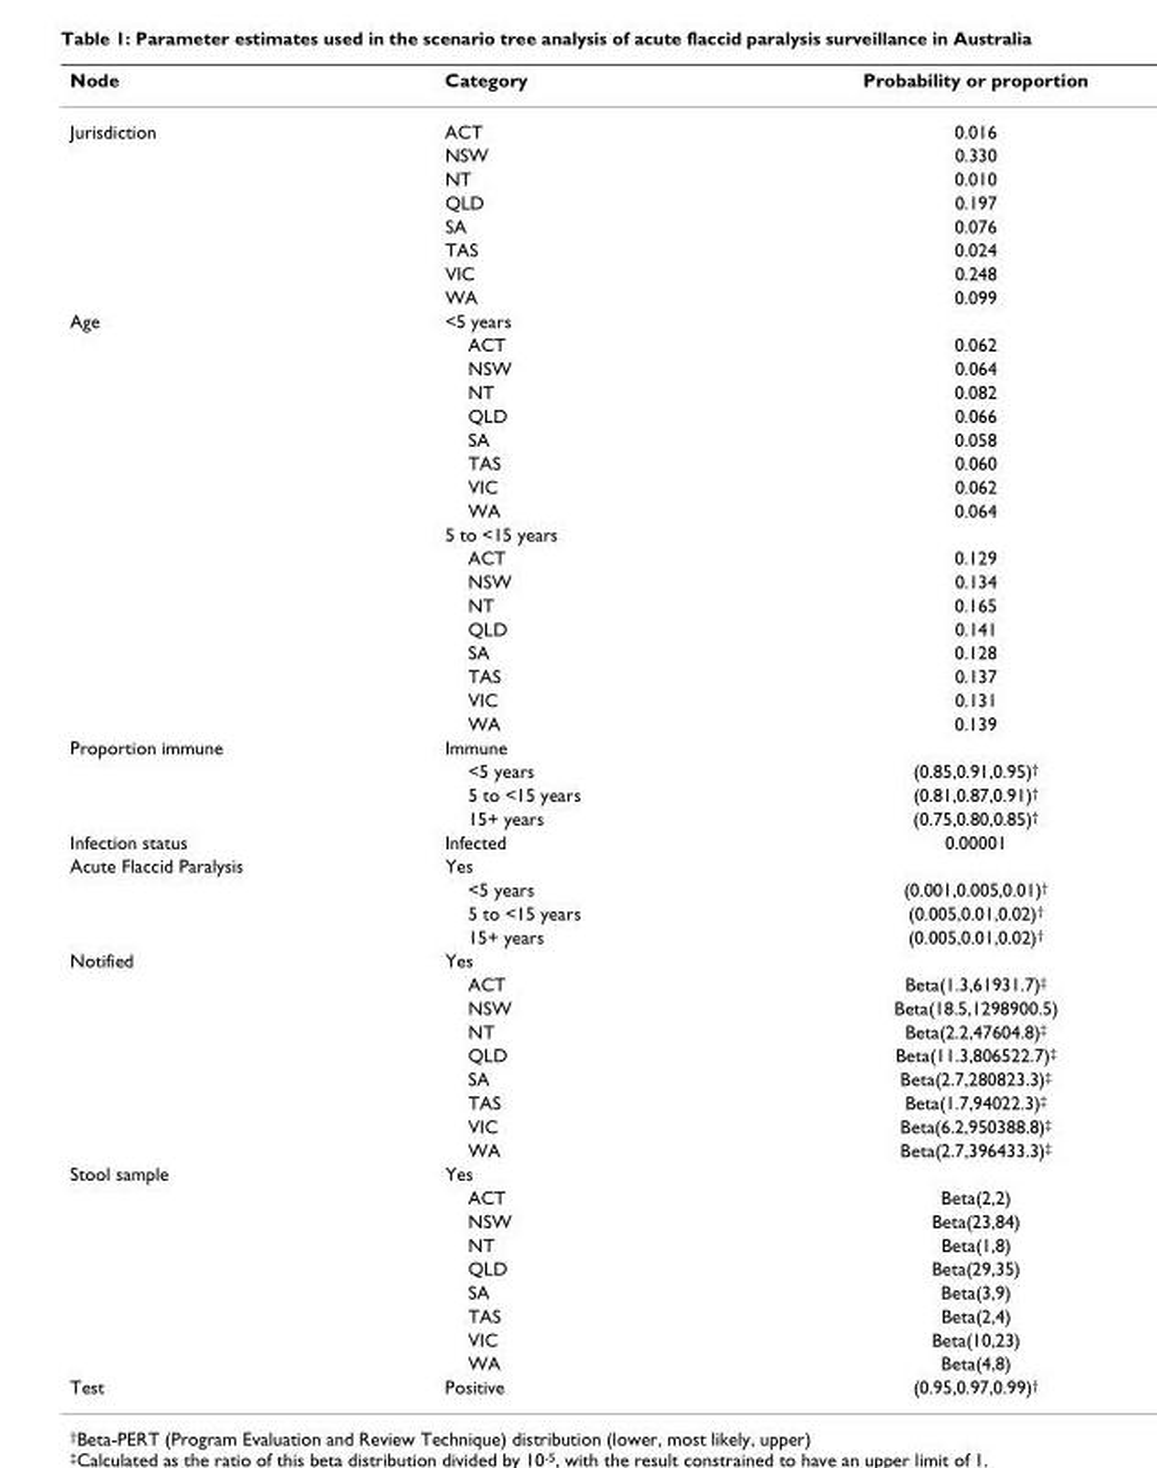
<table><thead><tr><td>Node</td><td>Category</td><td>Probability or proportion</td></tr></thead><tbody><tr><td rowspan="8">Jurisdiction</td><td>ACT</td><td>0.016</td></tr><tr><td>NSW</td><td>0.330</td></tr><tr><td>NT</td><td>0.010</td></tr><tr><td>QLD</td><td>0.197</td></tr><tr><td>SA</td><td>0.076</td></tr><tr><td>TAS</td><td>0.024</td></tr><tr><td>VIC</td><td>0.248</td></tr><tr><td>WA</td><td>0.099</td></tr><tr><td rowspan="18">Age</td><td>&lt;5 years</td><td></td></tr><tr><td>ACT</td><td>0.062</td></tr><tr><td>NSW</td><td>0.064</td></tr><tr><td>NT</td><td>0.082</td></tr><tr><td>QLD</td><td>0.066</td></tr><tr><td>SA</td><td>0.058</td></tr><tr><td>TAS</td><td>0.060</td></tr><tr><td>VIC</td><td>0.062</td></tr><tr><td>WA</td><td>0.064</td></tr><tr><td>5 to &lt;15 years</td><td></td></tr><tr><td>ACT</td><td>0.129</td></tr><tr><td>NSW</td><td>0.134</td></tr><tr><td>NT</td><td>0.165</td></tr><tr><td>QLD</td><td>0.141</td></tr><tr><td>SA</td><td>0.128</td></tr><tr><td>TAS</td><td>0.137</td></tr><tr><td>VIC</td><td>0.131</td></tr><tr><td>WA</td><td>0.139</td></tr><tr><td rowspan="4">Proportion immune</td><td>Immune</td><td></td></tr><tr><td>&lt;5 years</td><td>(0.85,0.91,0.95)<sup>†</sup></td></tr><tr><td>5 to &lt;15 years</td><td>(0.81,0.87,0.91)<sup>†</sup></td></tr><tr><td>15+ years</td><td>(0.75,0.80,0.85)<sup>†</sup></td></tr><tr><td>Infection status</td><td>Infected</td><td>0.00001</td></tr><tr><td rowspan="4">Acute Flaccid Paralysis</td><td>Yes</td><td></td></tr><tr><td>&lt;5 years</td><td>(0.001,0.005,0.01)<sup>†</sup></td></tr><tr><td>5 to &lt;15 years</td><td>(0.005,0.01,0.02)<sup>†</sup></td></tr><tr><td>15+ years</td><td>(0.005,0.01,0.02)<sup>†</sup></td></tr><tr><td rowspan="9">Notified</td><td>Yes</td><td></td></tr><tr><td>ACT</td><td>Beta(1.3,61931.7)<sup>‡</sup></td></tr><tr><td>NSW</td><td>Beta(18.5,1298900.5)</td></tr><tr><td>NT</td><td>Beta(2.2,47604.8)<sup>‡</sup></td></tr><tr><td>QLD</td><td>Beta(11.3,806522.7)<sup>‡</sup></td></tr><tr><td>SA</td><td>Beta(2.7,280823.3)<sup>‡</sup></td></tr><tr><td>TAS</td><td>Beta(1.7,94022.3)<sup>‡</sup></td></tr><tr><td>VIC</td><td>Beta(6.2,950388.8)<sup>‡</sup></td></tr><tr><td>WA</td><td>Beta(2.7,396433.3)<sup>‡</sup></td></tr><tr><td rowspan="9">Stool sample</td><td>Yes</td><td></td></tr><tr><td>ACT</td><td>Beta(2,2)</td></tr><tr><td>NSW</td><td>Beta(23,84)</td></tr><tr><td>NT</td><td>Beta(1,8)</td></tr><tr><td>QLD</td><td>Beta(29,35)</td></tr><tr><td>SA</td><td>Beta(3,9)</td></tr><tr><td>TAS</td><td>Beta(2,4)</td></tr><tr><td>VIC</td><td>Beta(10,23)</td></tr><tr><td>WA</td><td>Beta(4,8)</td></tr><tr><td>Test</td><td>Positive</td><td>(0.95,0.97,0.99)<sup>†</sup></td></tr></tbody></table>